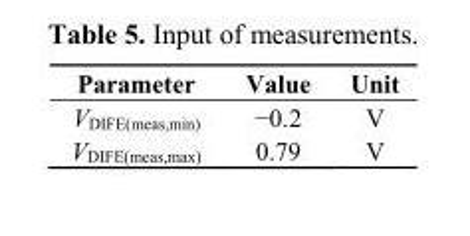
<table><thead><tr><td>Parameter</td><td>Value</td><td>Unit</td></tr></thead><tbody><tr><td>V<sub>DIFE(meas,min)</sub></td><td>−0.2</td><td>V</td></tr><tr><td>V<sub>DIFE(meas,max)</sub></td><td>0.79</td><td>V</td></tr></tbody></table>